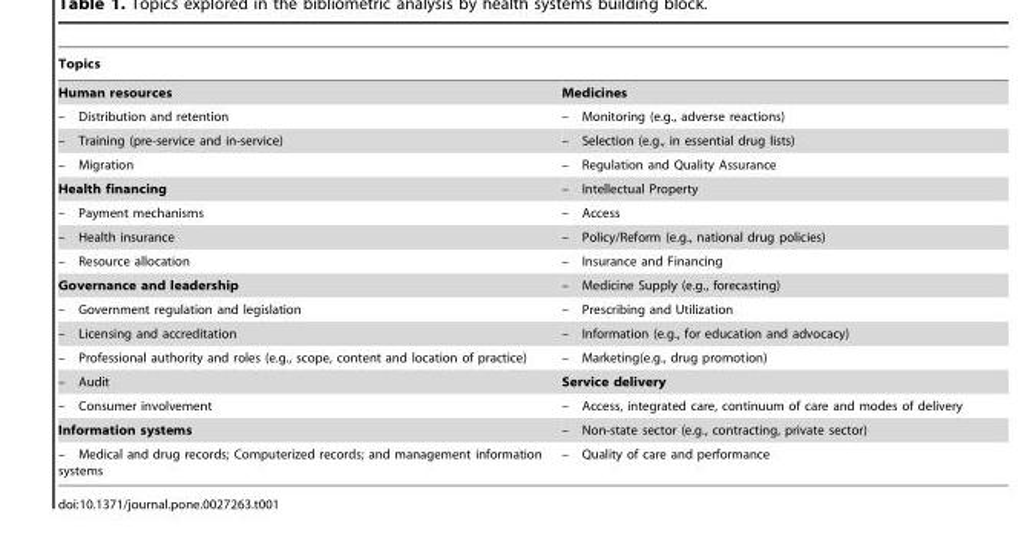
<table><thead><tr><td>Topics</td><td></td></tr></thead><tbody><tr><td>Human resources</td><td>Medicines</td></tr><tr><td>– Distribution and retention</td><td>– Monitoring (e.g., adverse reactions)</td></tr><tr><td>– Training (pre-service and in-service)</td><td>– Selection (e.g., in essential drug lists)</td></tr><tr><td>– Migration</td><td>– Regulation and Quality Assurance</td></tr><tr><td>Health financing</td><td>– Intellectual Property</td></tr><tr><td>– Payment mechanisms</td><td>– Access</td></tr><tr><td>– Health insurance</td><td>– Policy/Reform (e.g., national drug policies)</td></tr><tr><td>– Resource allocation</td><td>– Insurance and Financing</td></tr><tr><td>Governance and leadership</td><td>– Medicine Supply (e.g., forecasting)</td></tr><tr><td>– Government regulation and legislation</td><td>– Prescribing and Utilization</td></tr><tr><td>– Licensing and accreditation</td><td>– Information (e.g., for education and advocacy)</td></tr><tr><td>– Professional authority and roles (e.g., scope, content and location of practice)</td><td>– Marketing(e.g., drug promotion)</td></tr><tr><td>– Audit</td><td>Service delivery</td></tr><tr><td>– Consumer involvement</td><td>– Access, integrated care, continuum of care and modes of delivery</td></tr><tr><td>Information systems</td><td>– Non-state sector (e.g., contracting, private sector)</td></tr><tr><td>– Medical and drug records; Computerized records; and management information systems</td><td>– Quality of care and performance</td></tr></tbody></table>